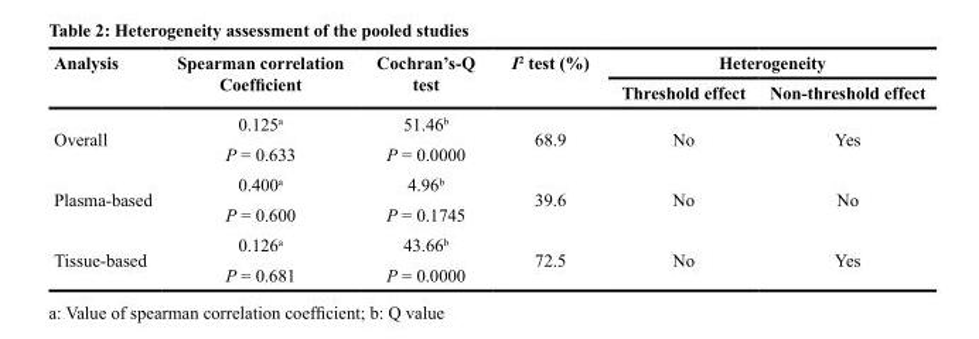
<table><thead><tr><td rowspan="2">Analysis</td><td rowspan="2">Spearman correlation Coefficient</td><td rowspan="2">Cochran’s-Q test</td><td rowspan="2">I<sup>2</sup> test (%)</td><td colspan="2">Heterogeneity</td></tr><tr><td>Threshold effect</td><td>Non-threshold effect</td></tr></thead><tbody><tr><td rowspan="2">Overall</td><td>0.125<sup>a</sup></td><td>51.46<sup>b</sup></td><td rowspan="2">68.9</td><td rowspan="2">No</td><td rowspan="2">Yes</td></tr><tr><td>P = 0.633</td><td>P = 0.0000</td></tr><tr><td rowspan="2">Plasma-based</td><td>0.400<sup>a</sup></td><td>4.96<sup>b</sup></td><td rowspan="2">39.6</td><td rowspan="2">No</td><td rowspan="2">No</td></tr><tr><td>P = 0.600</td><td>P = 0.1745</td></tr><tr><td rowspan="2">Tissue-based</td><td>0.126<sup>a</sup></td><td>43.66<sup>b</sup></td><td rowspan="2">72.5</td><td rowspan="2">No</td><td rowspan="2">Yes</td></tr><tr><td>P = 0.681</td><td>P = 0.0000</td></tr></tbody></table>